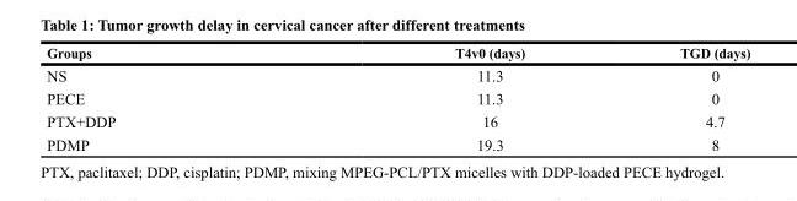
<table><thead><tr><td>Groups</td><td>T4v0 (days)</td><td>TGD (days)</td></tr></thead><tbody><tr><td>NS</td><td>11.3</td><td>0</td></tr><tr><td>PECE</td><td>11.3</td><td>0</td></tr><tr><td>PTX+DDP</td><td>16</td><td>4.7</td></tr><tr><td>PDMP</td><td>19.3</td><td>8</td></tr></tbody></table>